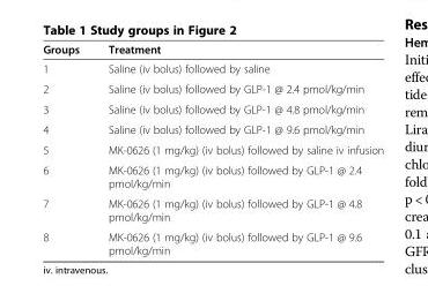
<table><thead><tr><td>Groups</td><td>Treatment</td></tr></thead><tbody><tr><td>1</td><td>Saline (iv bolus) followed by saline</td></tr><tr><td>2</td><td>Saline (iv bolus) followed by GLP-1 @ 2.4 pmol/kg/min</td></tr><tr><td>3</td><td>Saline (iv bolus) followed by GLP-1 @ 4.8 pmol/kg/min</td></tr><tr><td>4</td><td>Saline (iv bolus) followed by GLP-1 @ 9.6 pmol/kg/min</td></tr><tr><td>5</td><td>MK-0626 (1 mg/kg) (iv bolus) followed by saline iv infusion</td></tr><tr><td>6</td><td>MK-0626 (1 mg/kg) (iv bolus) followed by GLP-1 @ 2.4 pmol/kg/min</td></tr><tr><td>7</td><td>MK-0626 (1 mg/kg) (iv bolus) followed by GLP-1 @ 4.8 pmol/kg/min</td></tr><tr><td>8</td><td>MK-0626 (1 mg/kg) (iv bolus) followed by GLP-1 @ 9.6 pmol/kg/min</td></tr></tbody></table>